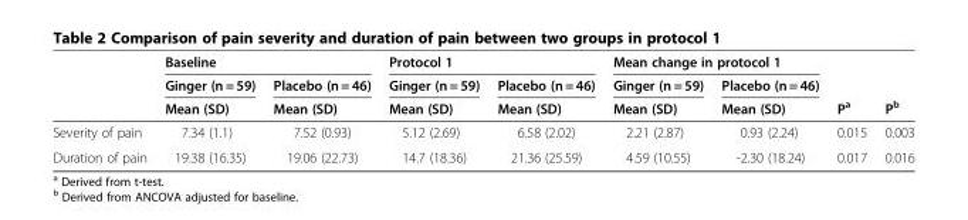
<table><thead><tr><td rowspan="3"></td><td colspan="2">Baseline</td><td colspan="2">Protocol 1</td><td colspan="2">Mean change in protocol 1</td><td rowspan="3">P<sup>a</sup></td><td rowspan="3">P<sup>b</sup></td></tr><tr><td rowspan="2">Ginger (n = 59) Mean (SD)</td><td rowspan="2">Placebo (n = 46) Mean (SD)</td><td rowspan="2">Ginger (n = 59) Mean (SD)</td><td rowspan="2">Placebo (n = 46) Mean (SD)</td><td rowspan="2">Ginger (n = 59) Mean (SD)</td><td rowspan="2">Placebo (n = 46) Mean (SD)</td></tr><tr></tr></thead><tbody><tr><td>Severity of pain</td><td>7.34 (1.1)</td><td>7.52 (0.93)</td><td>5.12 (2.69)</td><td>6.58 (2.02)</td><td>2.21 (2.87)</td><td>0.93 (2.24)</td><td>0.015</td><td>0.003</td></tr><tr><td>Duration of pain</td><td>19.38 (16.35)</td><td>19.06 (22.73)</td><td>14.7 (18.36)</td><td>21.36 (25.59)</td><td>4.59 (10.55)</td><td>-2.30 (18.24)</td><td>0.017</td><td>0.016</td></tr></tbody></table>